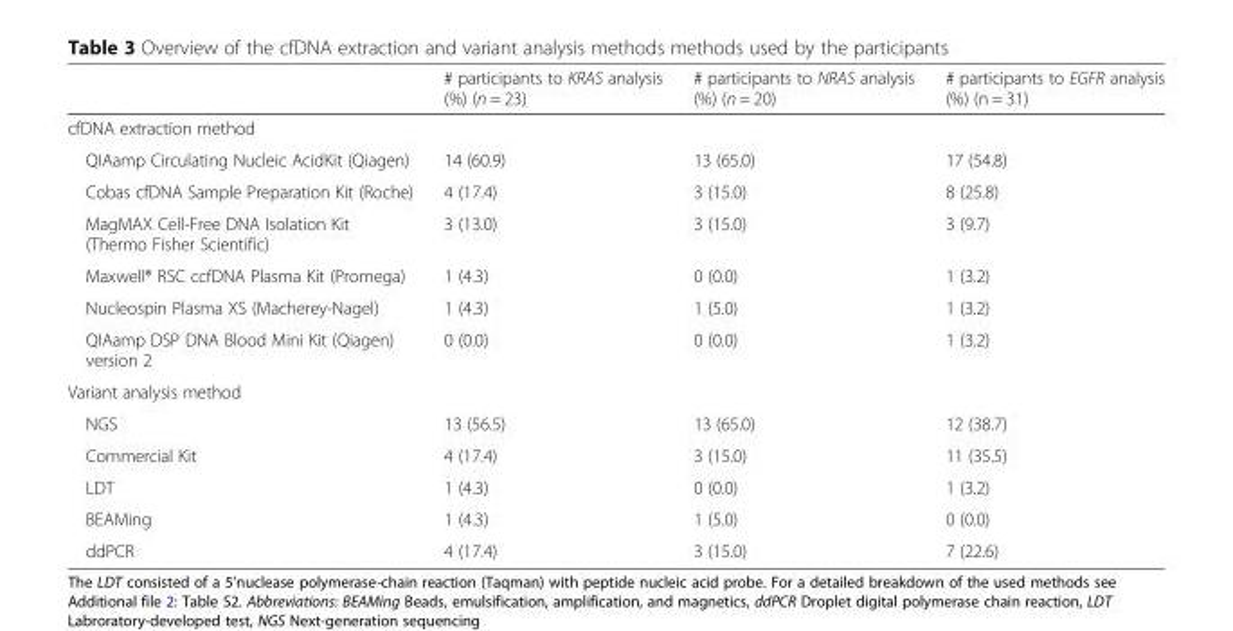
<table><thead><tr><td></td><td># participants to KRAS analysis (%) (n = 23)</td><td># participants to NRAS analysis (%) (n = 20)</td><td># participants to EGFR analysis (%) (n = 31)</td></tr></thead><tbody><tr><td colspan="4">cfDNA extraction method</td></tr><tr><td>QIAamp Circulating Nucleic AcidKit (Qiagen)</td><td>14 (60.9)</td><td>13 (65.0)</td><td>17 (54.8)</td></tr><tr><td>Cobas cfDNA Sample Preparation Kit (Roche)</td><td>4 (17.4)</td><td>3 (15.0)</td><td>8 (25.8)</td></tr><tr><td>MagMAX Cell-Free DNA Isolation Kit (Thermo Fisher Scientific)</td><td>3 (13.0)</td><td>3 (15.0)</td><td>3 (9.7)</td></tr><tr><td>Maxwell® RSC ccfDNA Plasma Kit (Promega)</td><td>1 (4.3)</td><td>0 (0.0)</td><td>1 (3.2)</td></tr><tr><td>Nucleospin Plasma XS (Macherey-Nagel)</td><td>1 (4.3)</td><td>1 (5.0)</td><td>1 (3.2)</td></tr><tr><td>QIAamp DSP DNA Blood Mini Kit (Qiagen) version 2</td><td>0 (0.0)</td><td>0 (0.0)</td><td>1 (3.2)</td></tr><tr><td colspan="4">Variant analysis method</td></tr><tr><td>NGS</td><td>13 (56.5)</td><td>13 (65.0)</td><td>12 (38.7)</td></tr><tr><td>Commercial Kit</td><td>4 (17.4)</td><td>3 (15.0)</td><td>11 (35.5)</td></tr><tr><td>LDT</td><td>1 (4.3)</td><td>0 (0.0)</td><td>1 (3.2)</td></tr><tr><td>BEAMing</td><td>1 (4.3)</td><td>1 (5.0)</td><td>0 (0.0)</td></tr><tr><td>ddPCR</td><td>4 (17.4)</td><td>3 (15.0)</td><td>7 (22.6)</td></tr></tbody></table>